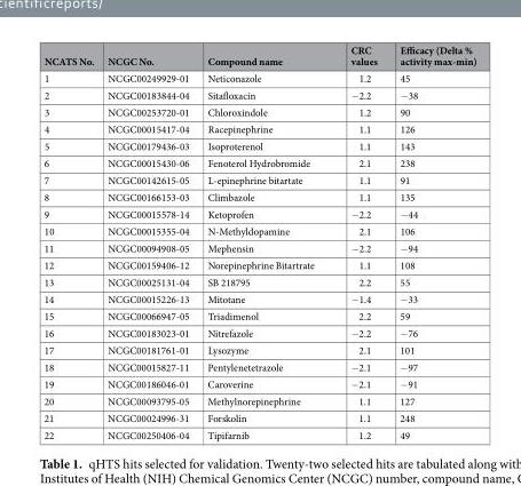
<table><thead><tr><td>NCATS No.</td><td>NCGC No.</td><td>Compound name</td><td>CRC values</td><td>Efficacy (Delta % activity max-min)</td></tr></thead><tbody><tr><td>1</td><td>NCGC00249929-01</td><td>Neticonazole</td><td>1.2</td><td>45</td></tr><tr><td>2</td><td>NCGC00183844-04</td><td>Sitafloxacin</td><td>−2.2</td><td>−38</td></tr><tr><td>3</td><td>NCGC00253720-01</td><td>Chloroxindole</td><td>1.2</td><td>90</td></tr><tr><td>4</td><td>NCGC00015417-04</td><td>Racepinephrine</td><td>1.1</td><td>126</td></tr><tr><td>5</td><td>NCGC00179436-03</td><td>Isoproterenol</td><td>1.1</td><td>143</td></tr><tr><td>6</td><td>NCGC00015430-06</td><td>Fenoterol Hydrobromide</td><td>2.1</td><td>238</td></tr><tr><td>7</td><td>NCGC00142615-05</td><td>L-epinephrine bitartate</td><td>1.1</td><td>91</td></tr><tr><td>8</td><td>NCGC00166153-03</td><td>Climbazole</td><td>1.1</td><td>135</td></tr><tr><td>9</td><td>NCGC00015578-14</td><td>Ketoprofen</td><td>−2.2</td><td>−44</td></tr><tr><td>10</td><td>NCGC00015355-04</td><td>N-Methyldopamine</td><td>2.1</td><td>106</td></tr><tr><td>11</td><td>NCGC00094908-05</td><td>Mephensin</td><td>−2.2</td><td>−94</td></tr><tr><td>12</td><td>NCGC00159406-12</td><td>Norepinephrine Bitartrate</td><td>1.1</td><td>108</td></tr><tr><td>13</td><td>NCGC00025131-04</td><td>SB 218795</td><td>2.2</td><td>55</td></tr><tr><td>14</td><td>NCGC00015226-13</td><td>Mitotane</td><td>−1.4</td><td>−33</td></tr><tr><td>15</td><td>NCGC00066947-05</td><td>Triadimenol</td><td>2.2</td><td>59</td></tr><tr><td>16</td><td>NCGC00183023-01</td><td>Nitrefazole</td><td>−2.2</td><td>−76</td></tr><tr><td>17</td><td>NCGC00181761-01</td><td>Lysozyme</td><td>2.1</td><td>101</td></tr><tr><td>18</td><td>NCGC00015827-11</td><td>Pentylenetetrazole</td><td>−2.1</td><td>−97</td></tr><tr><td>19</td><td>NCGC00186046-01</td><td>Caroverine</td><td>−2.1</td><td>−91</td></tr><tr><td>20</td><td>NCGC00093795-05</td><td>Methylnorepinephrine</td><td>1.1</td><td>127</td></tr><tr><td>21</td><td>NCGC00024996-31</td><td>Forskolin</td><td>1.1</td><td>248</td></tr><tr><td>22</td><td>NCGC00250406-04</td><td>Tipifarnib</td><td>1.2</td><td>49</td></tr></tbody></table>